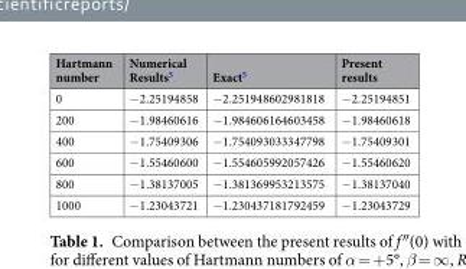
<table><thead><tr><td>Hartmann number</td><td>Numerical Results<sup>5</sup></td><td>Exact<sup>5</sup></td><td>Present results</td></tr></thead><tbody><tr><td>0</td><td>−2.25194858</td><td>−2.251948602981818</td><td>−2.25194851</td></tr><tr><td>200</td><td>−1.98460616</td><td>−1.984606164603458</td><td>−1.98460618</td></tr><tr><td>400</td><td>−1.75409306</td><td>−1.754093033347798</td><td>−1.75409301</td></tr><tr><td>600</td><td>−1.55460600</td><td>−1.554605992057426</td><td>−1.55460620</td></tr><tr><td>800</td><td>−1.38137005</td><td>−1.381369953213575</td><td>−1.38137040</td></tr><tr><td>1000</td><td>−1.23043721</td><td>−1.230437181792459</td><td>−1.23043729</td></tr></tbody></table>